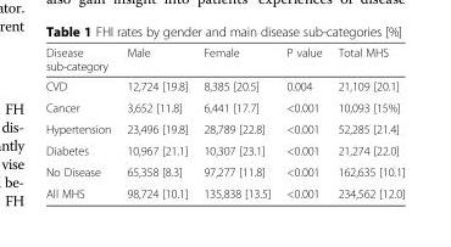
<table><thead><tr><td>Disease sub-category</td><td>Male</td><td>Female</td><td>P value</td><td>Total MHS</td></tr></thead><tbody><tr><td>CVD</td><td>12,724 [19.8]</td><td>8,385 [20.5]</td><td>0.004</td><td>21,109 [20.1]</td></tr><tr><td>Cancer</td><td>3,652 [11.8]</td><td>6,441 [17.7]</td><td>&lt;0.001</td><td>10,093 [15%]</td></tr><tr><td>Hypertension</td><td>23,496 [19.8]</td><td>28,789 [22.8]</td><td>&lt;0.001</td><td>52,285 [21.4]</td></tr><tr><td>Diabetes</td><td>10,967 [21.1]</td><td>10,307 [23.1]</td><td>&lt;0.001</td><td>21,274 [22.0]</td></tr><tr><td>No Disease</td><td>65,358 [8.3]</td><td>97,277 [11.8]</td><td>&lt;0.001</td><td>162,635 [10.1]</td></tr><tr><td>All MHS</td><td>98,724 [10.1]</td><td>135,838 [13.5]</td><td>&lt;0.001</td><td>234,562 [12.0]</td></tr></tbody></table>